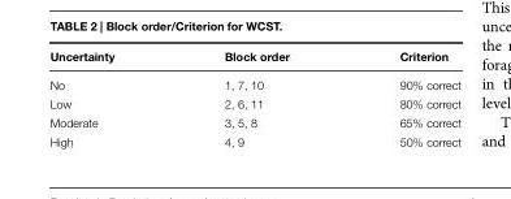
<table><thead><tr><td>Uncertainty</td><td>Block order</td><td>Criterion</td></tr></thead><tbody><tr><td>No</td><td>1, 7, 10</td><td>90% correct</td></tr><tr><td>Low</td><td>2, 6, 11</td><td>80% correct</td></tr><tr><td>Moderate</td><td>3, 5, 8</td><td>65% correct</td></tr><tr><td>High</td><td>4, 9</td><td>50% correct</td></tr></tbody></table>